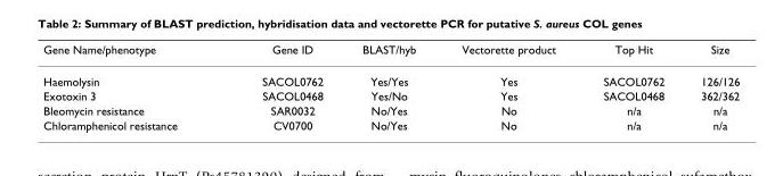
<table><thead><tr><td>Gene Name/phenotype</td><td>Gene ID</td><td>BLAST/hyb</td><td>Vectorette product</td><td>Top Hit</td><td>Size</td></tr></thead><tbody><tr><td>Haemolysin</td><td>SACOL0762</td><td>Yes/Yes</td><td>Yes</td><td>SACOL0762</td><td>126/126</td></tr><tr><td>Exotoxin 3</td><td>SACOL0468</td><td>Yes/No</td><td>Yes</td><td>SACOL0468</td><td>362/362</td></tr><tr><td>Bleomycin resistance</td><td>SAR0032</td><td>No/Yes</td><td>No</td><td>n/a</td><td>n/a</td></tr><tr><td>Chloramphenicol resistance</td><td>CV0700</td><td>No/Yes</td><td>No</td><td>n/a</td><td>n/a</td></tr></tbody></table>